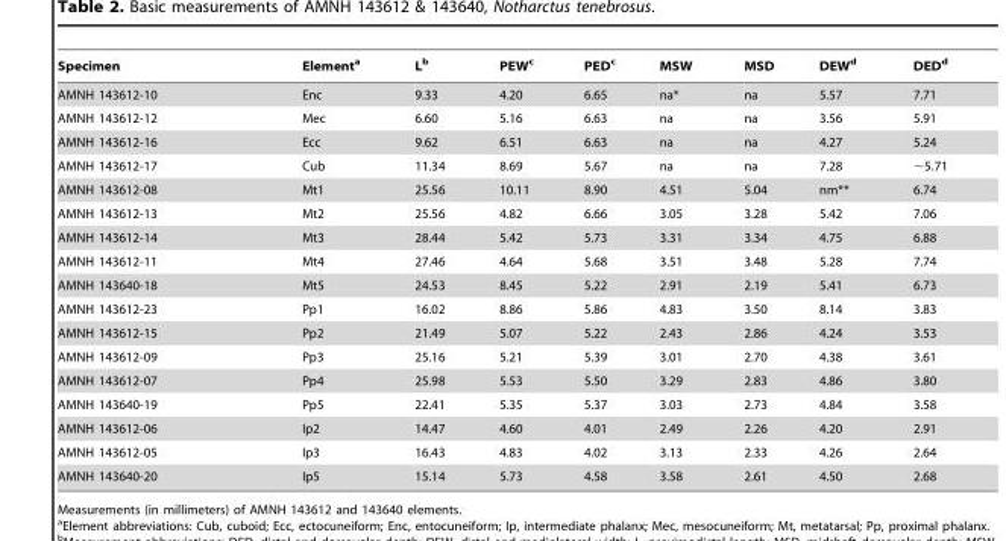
<table><thead><tr><td>Specimen</td><td>Element<sup>a</sup></td><td>L<sup>b</sup></td><td>PEW<sup>c</sup></td><td>PED<sup>c</sup></td><td>MSW</td><td>MSD</td><td>DEW<sup>d</sup></td><td>DED<sup>d</sup></td></tr></thead><tbody><tr><td>AMNH 143612-10</td><td>Enc</td><td>9.33</td><td>4.20</td><td>6.65</td><td>na*</td><td>na</td><td>5.57</td><td>7.71</td></tr><tr><td>AMNH 143612-12</td><td>Mec</td><td>6.60</td><td>5.16</td><td>6.63</td><td>na</td><td>na</td><td>3.56</td><td>5.91</td></tr><tr><td>AMNH 143612-16</td><td>Ecc</td><td>9.62</td><td>6.51</td><td>6.63</td><td>na</td><td>na</td><td>4.27</td><td>5.24</td></tr><tr><td>AMNH 143612-17</td><td>Cub</td><td>11.34</td><td>8.69</td><td>5.67</td><td>na</td><td>na</td><td>7.28</td><td>∼5.71</td></tr><tr><td>AMNH 143612-08</td><td>Mt1</td><td>25.56</td><td>10.11</td><td>8.90</td><td>4.51</td><td>5.04</td><td>nm**</td><td>6.74</td></tr><tr><td>AMNH 143612-13</td><td>Mt2</td><td>25.56</td><td>4.82</td><td>6.66</td><td>3.05</td><td>3.28</td><td>5.42</td><td>7.06</td></tr><tr><td>AMNH 143612-14</td><td>Mt3</td><td>28.44</td><td>5.42</td><td>5.73</td><td>3.31</td><td>3.34</td><td>4.75</td><td>6.88</td></tr><tr><td>AMNH 143612-11</td><td>Mt4</td><td>27.46</td><td>4.64</td><td>5.68</td><td>3.51</td><td>3.48</td><td>5.28</td><td>7.74</td></tr><tr><td>AMNH 143640-18</td><td>Mt5</td><td>24.53</td><td>8.45</td><td>5.22</td><td>2.91</td><td>2.19</td><td>5.41</td><td>6.73</td></tr><tr><td>AMNH 143612-23</td><td>Pp1</td><td>16.02</td><td>8.86</td><td>5.86</td><td>4.83</td><td>3.50</td><td>8.14</td><td>3.83</td></tr><tr><td>AMNH 143612-15</td><td>Pp2</td><td>21.49</td><td>5.07</td><td>5.22</td><td>2.43</td><td>2.86</td><td>4.24</td><td>3.53</td></tr><tr><td>AMNH 143612-09</td><td>Pp3</td><td>25.16</td><td>5.21</td><td>5.39</td><td>3.01</td><td>2.70</td><td>4.38</td><td>3.61</td></tr><tr><td>AMNH 143612-07</td><td>Pp4</td><td>25.98</td><td>5.53</td><td>5.50</td><td>3.29</td><td>2.83</td><td>4.86</td><td>3.80</td></tr><tr><td>AMNH 143640-19</td><td>Pp5</td><td>22.41</td><td>5.35</td><td>5.37</td><td>3.03</td><td>2.73</td><td>4.84</td><td>3.58</td></tr><tr><td>AMNH 143612-06</td><td>Ip2</td><td>14.47</td><td>4.60</td><td>4.01</td><td>2.49</td><td>2.26</td><td>4.20</td><td>2.91</td></tr><tr><td>AMNH 143612-05</td><td>Ip3</td><td>16.43</td><td>4.83</td><td>4.02</td><td>3.13</td><td>2.33</td><td>4.26</td><td>2.64</td></tr><tr><td>AMNH 143640-20</td><td>Ip5</td><td>15.14</td><td>5.73</td><td>4.58</td><td>3.58</td><td>2.61</td><td>4.50</td><td>2.68</td></tr></tbody></table>